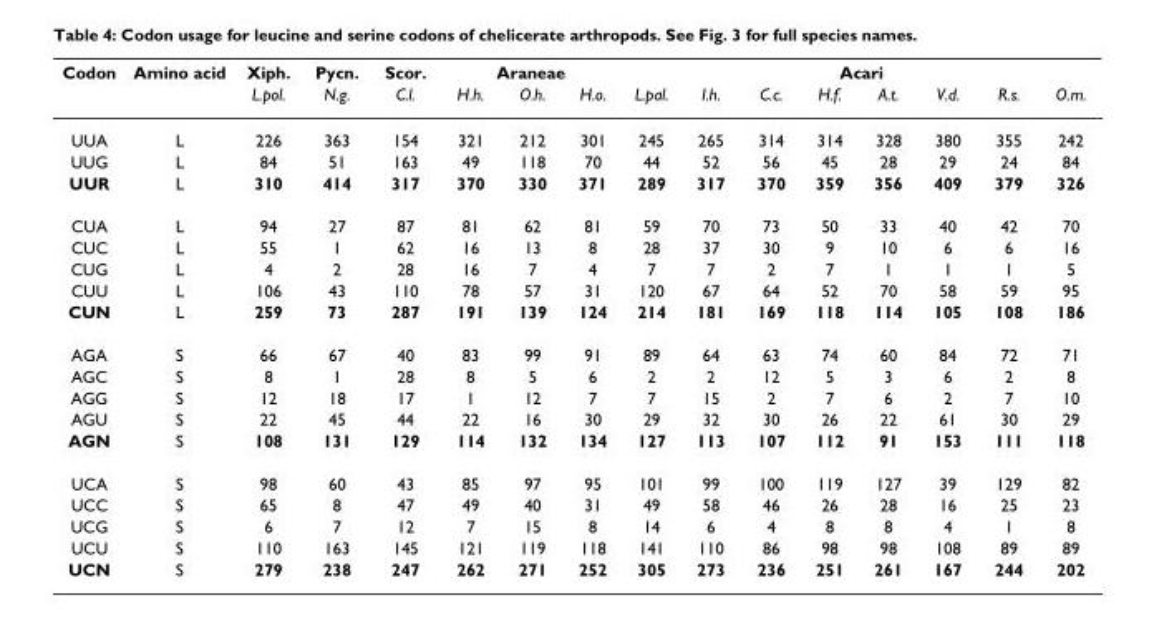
<table><thead><tr><td rowspan="2">Codon</td><td rowspan="2">Amino acid</td><td rowspan="2">Xiph. L.pol.</td><td rowspan="2">Pycn. N.g.</td><td rowspan="2">Scor. C.l.</td><td colspan="3">Araneae</td><td colspan="8">Acari</td></tr><tr><td>H.h.</td><td>O.h.</td><td>H.o.</td><td>L.pal.</td><td>I.h.</td><td>C.c.</td><td>H.f.</td><td>A.t.</td><td>V.d.</td><td>R.s.</td><td>O.m.</td></tr></thead><tbody><tr><td>UUA</td><td>L</td><td>226</td><td>363</td><td>154</td><td>321</td><td>212</td><td>301</td><td>245</td><td>265</td><td>314</td><td>314</td><td>328</td><td>380</td><td>355</td><td>242</td></tr><tr><td>UUG</td><td>L</td><td>84</td><td>51</td><td>163</td><td>49</td><td>118</td><td>70</td><td>44</td><td>52</td><td>56</td><td>45</td><td>28</td><td>29</td><td>24</td><td>84</td></tr><tr><td>UUR</td><td>L</td><td>310</td><td>414</td><td>317</td><td>370</td><td>330</td><td>371</td><td>289</td><td>317</td><td>370</td><td>359</td><td>356</td><td>409</td><td>379</td><td>326</td></tr><tr><td>CUA</td><td>L</td><td>94</td><td>27</td><td>87</td><td>81</td><td>62</td><td>81</td><td>59</td><td>70</td><td>73</td><td>50</td><td>33</td><td>40</td><td>42</td><td>70</td></tr><tr><td>CUC</td><td>L</td><td>55</td><td>1</td><td>62</td><td>16</td><td>13</td><td>8</td><td>28</td><td>37</td><td>30</td><td>9</td><td>10</td><td>6</td><td>6</td><td>16</td></tr><tr><td>CUG</td><td>L</td><td>4</td><td>2</td><td>28</td><td>16</td><td>7</td><td>4</td><td>7</td><td>7</td><td>2</td><td>7</td><td>1</td><td>1</td><td>1</td><td>5</td></tr><tr><td>CUU</td><td>L</td><td>106</td><td>43</td><td>110</td><td>78</td><td>57</td><td>31</td><td>120</td><td>67</td><td>64</td><td>52</td><td>70</td><td>58</td><td>59</td><td>95</td></tr><tr><td>CUN</td><td>L</td><td>259</td><td>73</td><td>287</td><td>191</td><td>139</td><td>124</td><td>214</td><td>181</td><td>169</td><td>118</td><td>114</td><td>105</td><td>108</td><td>186</td></tr><tr><td>AGA</td><td>S</td><td>66</td><td>67</td><td>40</td><td>83</td><td>99</td><td>91</td><td>89</td><td>64</td><td>63</td><td>74</td><td>60</td><td>84</td><td>72</td><td>71</td></tr><tr><td>AGC</td><td>S</td><td>8</td><td>1</td><td>28</td><td>8</td><td>5</td><td>6</td><td>2</td><td>2</td><td>12</td><td>5</td><td>3</td><td>6</td><td>2</td><td>8</td></tr><tr><td>AGG</td><td>S</td><td>12</td><td>18</td><td>17</td><td>1</td><td>12</td><td>7</td><td>7</td><td>15</td><td>2</td><td>7</td><td>6</td><td>2</td><td>7</td><td>10</td></tr><tr><td>AGU</td><td>S</td><td>22</td><td>45</td><td>44</td><td>22</td><td>16</td><td>30</td><td>29</td><td>32</td><td>30</td><td>26</td><td>22</td><td>61</td><td>30</td><td>29</td></tr><tr><td>AGN</td><td>S</td><td>108</td><td>131</td><td>129</td><td>114</td><td>132</td><td>134</td><td>127</td><td>113</td><td>107</td><td>112</td><td>91</td><td>153</td><td>111</td><td>118</td></tr><tr><td>UCA</td><td>S</td><td>98</td><td>60</td><td>43</td><td>85</td><td>97</td><td>95</td><td>101</td><td>99</td><td>100</td><td>119</td><td>127</td><td>39</td><td>129</td><td>82</td></tr><tr><td>UCC</td><td>S</td><td>65</td><td>8</td><td>47</td><td>49</td><td>40</td><td>31</td><td>49</td><td>58</td><td>46</td><td>26</td><td>28</td><td>16</td><td>25</td><td>23</td></tr><tr><td>UCG</td><td>S</td><td>6</td><td>7</td><td>12</td><td>7</td><td>15</td><td>8</td><td>14</td><td>6</td><td>4</td><td>8</td><td>8</td><td>4</td><td>1</td><td>8</td></tr><tr><td>UCU</td><td>S</td><td>110</td><td>163</td><td>145</td><td>121</td><td>119</td><td>118</td><td>141</td><td>110</td><td>86</td><td>98</td><td>98</td><td>108</td><td>89</td><td>89</td></tr><tr><td>UCN</td><td>S</td><td>279</td><td>238</td><td>247</td><td>262</td><td>271</td><td>252</td><td>305</td><td>273</td><td>236</td><td>251</td><td>261</td><td>167</td><td>244</td><td>202</td></tr></tbody></table>